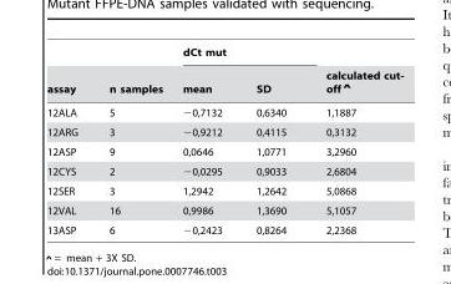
<table><thead><tr><td rowspan="2">assay</td><td rowspan="2">n samples</td><td colspan="2">dCt mut</td><td rowspan="2">calculated cut- offˆ</td></tr><tr><td>mean</td><td>SD</td></tr></thead><tbody><tr><td>12ALA</td><td>5</td><td>−0,7132</td><td>0,6340</td><td>1,1887</td></tr><tr><td>12ARG</td><td>3</td><td>−0,9212</td><td>0,4115</td><td>0,3132</td></tr><tr><td>12ASP</td><td>9</td><td>0,0646</td><td>1,0771</td><td>3,2960</td></tr><tr><td>12CYS</td><td>2</td><td>−0,0295</td><td>0,9033</td><td>2,6804</td></tr><tr><td>12SER</td><td>3</td><td>1,2942</td><td>1,2642</td><td>5,0868</td></tr><tr><td>12VAL</td><td>16</td><td>0,9986</td><td>1,3690</td><td>5,1057</td></tr><tr><td>13ASP</td><td>6</td><td>−0,2423</td><td>0,8264</td><td>2,2368</td></tr></tbody></table>